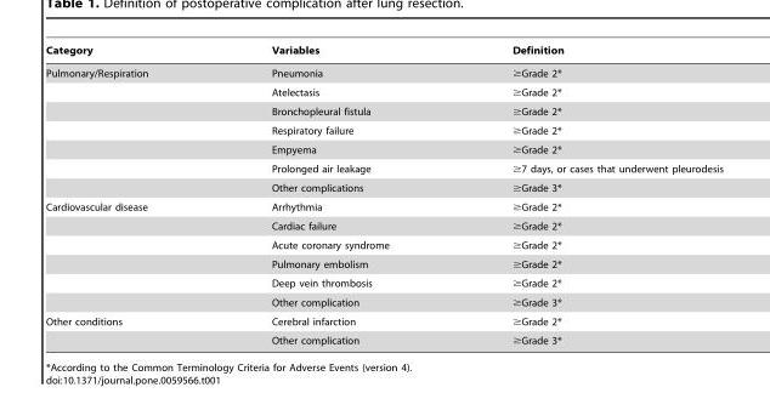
<table><thead><tr><td>Category</td><td>Variables</td><td>Definition</td></tr></thead><tbody><tr><td rowspan="7">Pulmonary/Respiration</td><td>Pneumonia</td><td>≥Grade 2*</td></tr><tr><td>Atelectasis</td><td>≥Grade 2*</td></tr><tr><td>Bronchopleural fistula</td><td>≥Grade 2*</td></tr><tr><td>Respiratory failure</td><td>≥Grade 2*</td></tr><tr><td>Empyema</td><td>≥Grade 2*</td></tr><tr><td>Prolonged air leakage</td><td>≥7 days, or cases that underwent pleurodesis</td></tr><tr><td>Other complications</td><td>≥Grade 3*</td></tr><tr><td rowspan="6">Cardiovascular disease</td><td>Arrhythmia</td><td>≥Grade 2*</td></tr><tr><td>Cardiac failure</td><td>≥Grade 2*</td></tr><tr><td>Acute coronary syndrome</td><td>≥Grade 2*</td></tr><tr><td>Pulmonary embolism</td><td>≥Grade 2*</td></tr><tr><td>Deep vein thrombosis</td><td>≥Grade 2*</td></tr><tr><td>Other complication</td><td>≥Grade 3*</td></tr><tr><td rowspan="2">Other conditions</td><td>Cerebral infarction</td><td>≥Grade 2*</td></tr><tr><td>Other complication</td><td>≥Grade 3*</td></tr></tbody></table>